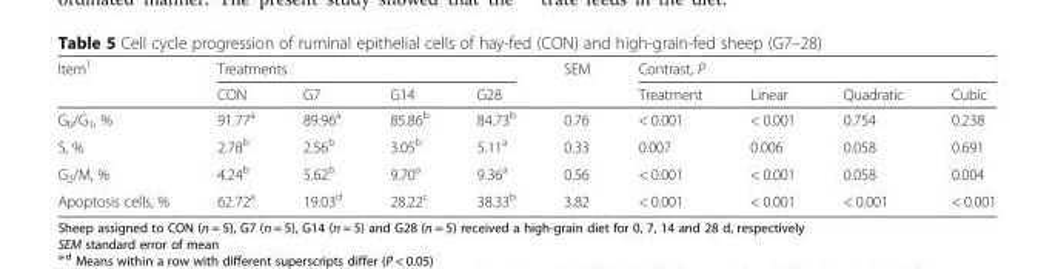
<table><thead><tr><td rowspan="2">Item<sup>1</sup></td><td colspan="4">Treatments</td><td rowspan="2">SEM</td><td colspan="4">Contrast, P</td></tr><tr><td>CON</td><td>G7</td><td>G14</td><td>G28</td><td>Treatment</td><td>Linear</td><td>Quadratic</td><td>Cubic</td></tr></thead><tbody><tr><td>G<sub>0</sub>/G<sub>1</sub>, %</td><td>91.77<sup>a</sup></td><td>89.96<sup>a</sup></td><td>85.86<sup>b</sup></td><td>84.73<sup>b</sup></td><td>0.76</td><td>&lt; 0.001</td><td>&lt; 0.001</td><td>0.754</td><td>0.238</td></tr><tr><td>S, %</td><td>2.78<sup>b</sup></td><td>2.56<sup>b</sup></td><td>3.05<sup>b</sup></td><td>5.11<sup>a</sup></td><td>0.33</td><td>0.007</td><td>0.006</td><td>0.058</td><td>0.691</td></tr><tr><td>G<sub>2</sub>/M, %</td><td>4.24<sup>b</sup></td><td>5.62<sup>b</sup></td><td>9.70<sup>a</sup></td><td>9.36<sup>a</sup></td><td>0.56</td><td>&lt; 0.001</td><td>&lt; 0.001</td><td>0.058</td><td>0.004</td></tr><tr><td>Apoptosis cells, %</td><td>62.72<sup>a</sup></td><td>19.03<sup>d</sup></td><td>28.22<sup>c</sup></td><td>38.33<sup>b</sup></td><td>3.82</td><td>&lt; 0.001</td><td>&lt; 0.001</td><td>&lt; 0.001</td><td>&lt; 0.001</td></tr></tbody></table>